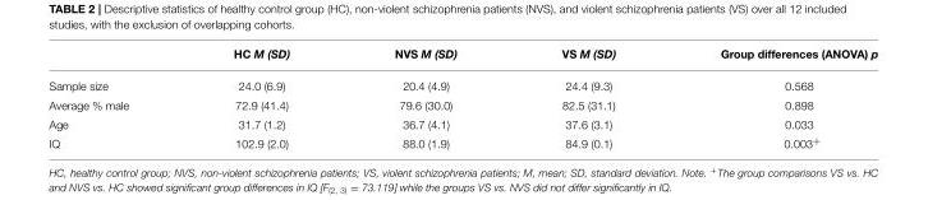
<table><thead><tr><td></td><td>HC M (SD)</td><td>NVS M (SD)</td><td>VS M (SD)</td><td>Group differences (ANOVA) p</td></tr></thead><tbody><tr><td>Sample size</td><td>24.0 (6.9)</td><td>20.4 (4.9)</td><td>24.4 (9.3)</td><td>0.568</td></tr><tr><td>Average % male</td><td>72.9 (41.4)</td><td>79.6 (30.0)</td><td>82.5 (31.1)</td><td>0.898</td></tr><tr><td>Age</td><td>31.7 (1.2)</td><td>36.7 (4.1)</td><td>37.6 (3.1)</td><td>0.033</td></tr><tr><td>IQ</td><td>102.9 (2.0)</td><td>88.0 (1.9)</td><td>84.9 (0.1)</td><td>0.003<sup>+</sup></td></tr></tbody></table>